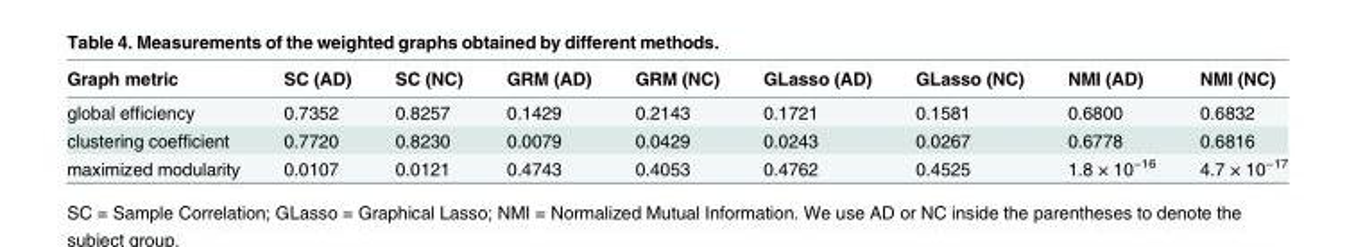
<table><thead><tr><td>Graph metric</td><td>SC (AD)</td><td>SC (NC)</td><td>GRM (AD)</td><td>GRM (NC)</td><td>GLasso (AD)</td><td>GLasso (NC)</td><td>NMI (AD)</td><td>NMI (NC)</td></tr></thead><tbody><tr><td>global efficiency</td><td>0.7352</td><td>0.8257</td><td>0.1429</td><td>0.2143</td><td>0.1721</td><td>0.1581</td><td>0.6800</td><td>0.6832</td></tr><tr><td>clustering coefficient</td><td>0.7720</td><td>0.8230</td><td>0.0079</td><td>0.0429</td><td>0.0243</td><td>0.0267</td><td>0.6778</td><td>0.6816</td></tr><tr><td>maximized modularity</td><td>0.0107</td><td>0.0121</td><td>0.4743</td><td>0.4053</td><td>0.4762</td><td>0.4525</td><td>1.8 × 10<sup>−16</sup></td><td>4.7 × 10<sup>−17</sup></td></tr></tbody></table>